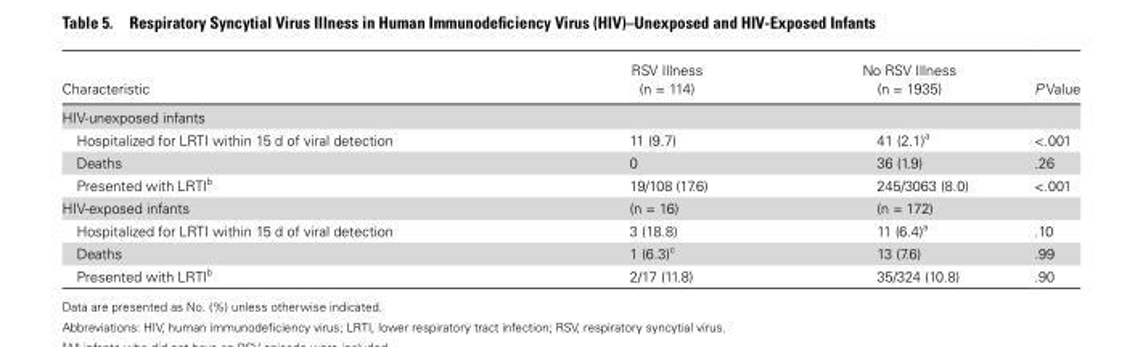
<table><thead><tr><td>Characteristic</td><td>RSV Illness (n = 114)</td><td>No RSV Illness (n = 1935)</td><td>P Value</td></tr></thead><tbody><tr><td colspan="4">HIV-unexposed infants</td></tr><tr><td>Hospitalized for LRTI within 15 d of viral detection</td><td>11 (9.7)</td><td>41 (2.1)<sup>a</sup></td><td>&lt;.001</td></tr><tr><td>Deaths</td><td>0</td><td>36 (1.9)</td><td>.26</td></tr><tr><td>Presented with LRTI<sup>b</sup></td><td>19/108 (17.6)</td><td>245/3063 (8.0)</td><td>&lt;.001</td></tr><tr><td>HIV-exposed infants</td><td>(n = 16)</td><td>(n = 172)</td><td></td></tr><tr><td>Hospitalized for LRTI within 15 d of viral detection</td><td>3 (18.8)</td><td>11 (6.4)<sup>a</sup></td><td>.10</td></tr><tr><td>Deaths</td><td>1 (6.3)<sup>c</sup></td><td>13 (7.6)</td><td>.99</td></tr><tr><td>Presented with LRTI<sup>b</sup></td><td>2/17 (11.8)</td><td>35/324 (10.8)</td><td>.90</td></tr></tbody></table>